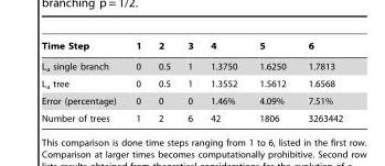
<table><thead><tr><td>Time Step</td><td>1</td><td>2</td><td>3</td><td>4</td><td>5</td><td>6</td></tr></thead><tbody><tr><td>L<sub>a</sub> single branch</td><td>0</td><td>0.5</td><td>1</td><td>1.3750</td><td>1.6250</td><td>1.7813</td></tr><tr><td>L<sub>a</sub> tree</td><td>0</td><td>0.5</td><td>1</td><td>1.3552</td><td>1.5612</td><td>1.6568</td></tr><tr><td>Error (percentage)</td><td>0</td><td>0</td><td>0</td><td>1.46%</td><td>4.09%</td><td>7.51%</td></tr><tr><td>Number of trees</td><td>1</td><td>2</td><td>6</td><td>42</td><td>1806</td><td>3263442</td></tr></tbody></table>